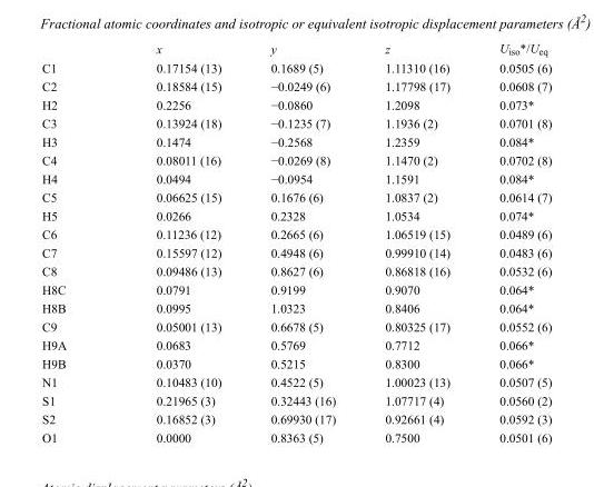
<table><thead><tr><td></td><td>x</td><td>y</td><td>z</td><td>U<sub>iso</sub>*/U<sub>eq</sub></td></tr></thead><tbody><tr><td>C1</td><td>0.17154 (13)</td><td>0.1689 (5)</td><td>1.11310 (16)</td><td>0.0505 (6)</td></tr><tr><td>C2</td><td>0.18584 (15)</td><td>−0.0249 (6)</td><td>1.17798 (17)</td><td>0.0608 (7)</td></tr><tr><td>H2</td><td>0.2256</td><td>−0.0860</td><td>1.2098</td><td>0.073*</td></tr><tr><td>C3</td><td>0.13924 (18)</td><td>−0.1235 (7)</td><td>1.1936 (2)</td><td>0.0701 (8)</td></tr><tr><td>H3</td><td>0.1474</td><td>−0.2568</td><td>1.2359</td><td>0.084*</td></tr><tr><td>C4</td><td>0.08011 (16)</td><td>−0.0269 (8)</td><td>1.1470 (2)</td><td>0.0702 (8)</td></tr><tr><td>H4</td><td>0.0494</td><td>−0.0954</td><td>1.1591</td><td>0.084*</td></tr><tr><td>C5</td><td>0.06625 (15)</td><td>0.1676 (6)</td><td>1.0837 (2)</td><td>0.0614 (7)</td></tr><tr><td>H5</td><td>0.0266</td><td>0.2328</td><td>1.0534</td><td>0.074*</td></tr><tr><td>C6</td><td>0.11236 (12)</td><td>0.2665 (6)</td><td>1.06519 (15)</td><td>0.0489 (6)</td></tr><tr><td>C7</td><td>0.15597 (12)</td><td>0.4948 (6)</td><td>0.99910 (14)</td><td>0.0483 (6)</td></tr><tr><td>C8</td><td>0.09486 (13)</td><td>0.8627 (6)</td><td>0.86818 (16)</td><td>0.0532 (6)</td></tr><tr><td>H8C</td><td>0.0791</td><td>0.9199</td><td>0.9070</td><td>0.064*</td></tr><tr><td>H8B</td><td>0.0995</td><td>1.0323</td><td>0.8406</td><td>0.064*</td></tr><tr><td>C9</td><td>0.05001 (13)</td><td>0.6678 (5)</td><td>0.80325 (17)</td><td>0.0552 (6)</td></tr><tr><td>H9A</td><td>0.0683</td><td>0.5769</td><td>0.7712</td><td>0.066*</td></tr><tr><td>H9B</td><td>0.0370</td><td>0.5215</td><td>0.8300</td><td>0.066*</td></tr><tr><td>N1</td><td>0.10483 (10)</td><td>0.4522 (5)</td><td>1.00023 (13)</td><td>0.0507 (5)</td></tr><tr><td>S1</td><td>0.21965 (3)</td><td>0.32443 (16)</td><td>1.07717 (4)</td><td>0.0560 (2)</td></tr><tr><td>S2</td><td>0.16852 (3)</td><td>0.69930 (17)</td><td>0.92661 (4)</td><td>0.0592 (3)</td></tr><tr><td>O1</td><td>0.0000</td><td>0.8363 (5)</td><td>0.7500</td><td>0.0501 (6)</td></tr></tbody></table>